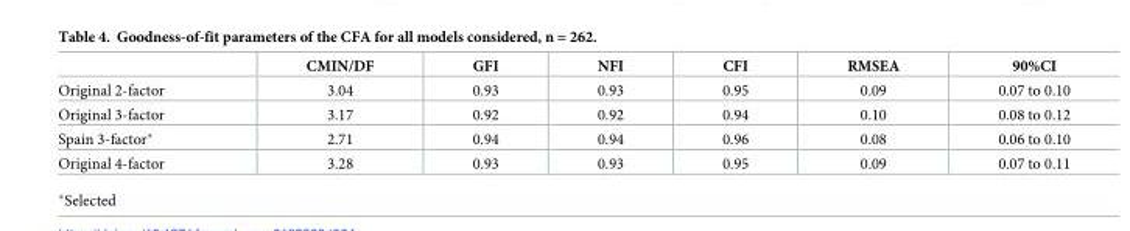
<table><thead><tr><td></td><td>CMIN/DF</td><td>GFI</td><td>NFI</td><td>CFI</td><td>RMSEA</td><td>90%CI</td></tr></thead><tbody><tr><td>Original 2-factor</td><td>3.04</td><td>0.93</td><td>0.93</td><td>0.95</td><td>0.09</td><td>0.07 to 0.10</td></tr><tr><td>Original 3-factor</td><td>3.17</td><td>0.92</td><td>0.92</td><td>0.94</td><td>0.10</td><td>0.08 to 0.12</td></tr><tr><td>Spain 3-factor*</td><td>2.71</td><td>0.94</td><td>0.94</td><td>0.96</td><td>0.08</td><td>0.06 to 0.10</td></tr><tr><td>Original 4-factor</td><td>3.28</td><td>0.93</td><td>0.93</td><td>0.95</td><td>0.09</td><td>0.07 to 0.11</td></tr></tbody></table>